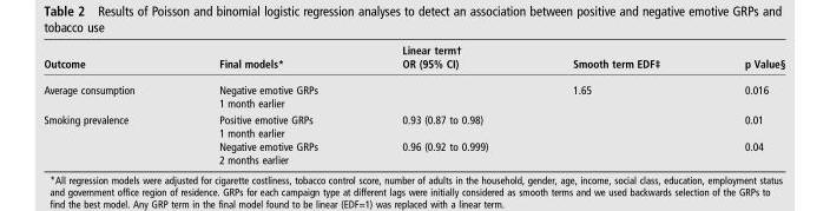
<table><thead><tr><td>Outcome</td><td>Final models*</td><td>Linear term† OR (95% CI)</td><td>Smooth term EDF‡</td><td>p Value§</td></tr></thead><tbody><tr><td>Average consumption</td><td>Negative emotive GRPs 1 month earlier</td><td></td><td>1.65</td><td>0.016</td></tr><tr><td rowspan="2">Smoking prevalence</td><td>Positive emotive GRPs 1 month earlier</td><td>0.93 (0.87 to 0.98)</td><td></td><td>0.01</td></tr><tr><td>Negative emotive GRPs 2 months earlier</td><td>0.96 (0.92 to 0.999)</td><td></td><td>0.04</td></tr></tbody></table>